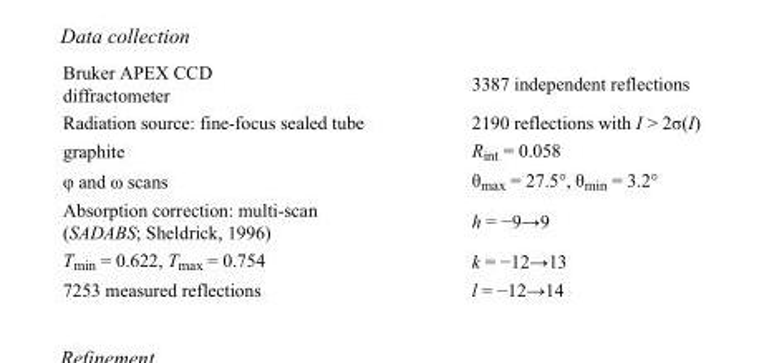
<table><tbody><tr><td>Bruker APEX CCD diffractometer</td><td>3387 independent reflections</td></tr><tr><td>Radiation source: fine-focus sealed tube</td><td>2190 reflections with I &gt; 2σ(I)</td></tr><tr><td>graphite</td><td>R<sub>int</sub> = 0.058</td></tr><tr><td>φ and ω scans</td><td>θ<sub>max</sub> = 27.5°, θ<sub>min</sub> = 3.2°</td></tr><tr><td>Absorption correction: multi-scan (SADABS; Sheldrick, 1996)</td><td>h = −9→9</td></tr><tr><td>T<sub>min</sub> = 0.622, T<sub>max</sub> = 0.754</td><td>k = −12→13</td></tr><tr><td>7253 measured reflections</td><td>l = −12→14</td></tr></tbody></table>